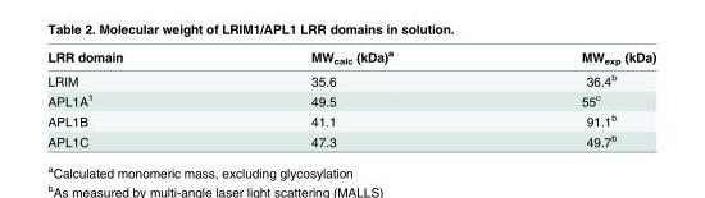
<table><thead><tr><td>LRR domain</td><td>MW<sub>calc</sub> (kDa)<sup>a</sup></td><td>MW<sub>exp</sub> (kDa)</td></tr></thead><tbody><tr><td>LRIM</td><td>35.6</td><td>36.4<sup>b</sup></td></tr><tr><td>APL1A<sup>1</sup></td><td>49.5</td><td>55<sup>c</sup></td></tr><tr><td>APL1B</td><td>41.1</td><td>91.1<sup>b</sup></td></tr><tr><td>APL1C</td><td>47.3</td><td>49.7<sup>b</sup></td></tr></tbody></table>